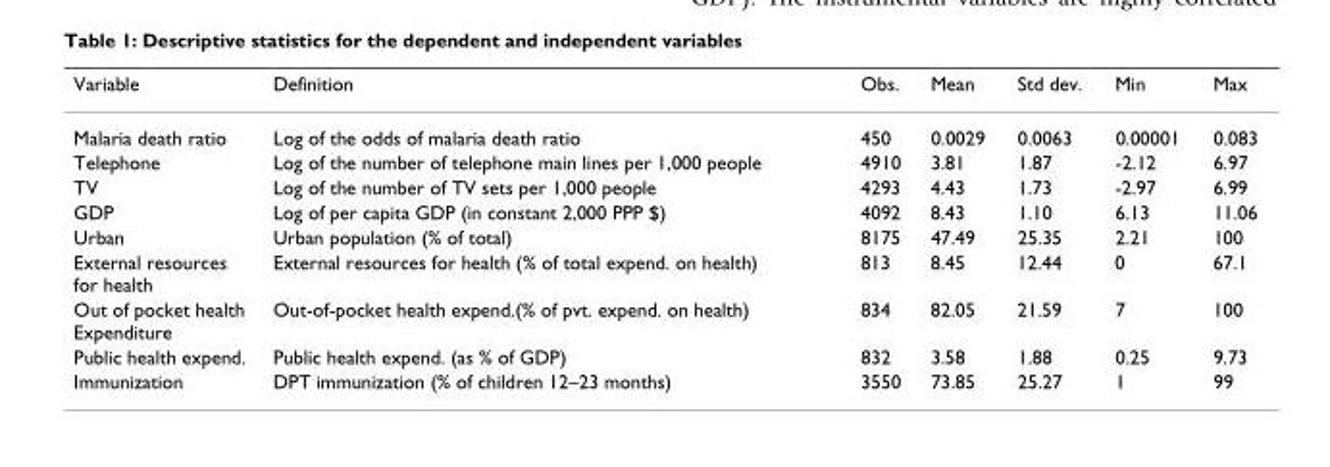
<table><thead><tr><td>Variable</td><td>Definition</td><td>Obs.</td><td>Mean</td><td>Std dev.</td><td>Min</td><td>Max</td></tr></thead><tbody><tr><td>Malaria death ratio</td><td>Log of the odds of malaria death ratio</td><td>450</td><td>0.0029</td><td>0.0063</td><td>0.00001</td><td>0.083</td></tr><tr><td>Telephone</td><td>Log of the number of telephone main lines per 1,000 people</td><td>4910</td><td>3.81</td><td>1.87</td><td>-2.12</td><td>6.97</td></tr><tr><td>TV</td><td>Log of the number of TV sets per 1,000 people</td><td>4293</td><td>4.43</td><td>1.73</td><td>-2.97</td><td>6.99</td></tr><tr><td>GDP</td><td>Log of per capita GDP (in constant 2,000 PPP $)</td><td>4092</td><td>8.43</td><td>1.10</td><td>6.13</td><td>11.06</td></tr><tr><td>Urban</td><td>Urban population (% of total)</td><td>8175</td><td>47.49</td><td>25.35</td><td>2.21</td><td>100</td></tr><tr><td>External resources for health</td><td>External resources for health (% of total expend. on health)</td><td>813</td><td>8.45</td><td>12.44</td><td>0</td><td>67.1</td></tr><tr><td>Out of pocket health Expenditure</td><td>Out-of-pocket health expend.(% of pvt. expend. on health)</td><td>834</td><td>82.05</td><td>21.59</td><td>7</td><td>100</td></tr><tr><td>Public health expend.</td><td>Public health expend. (as % of GDP)</td><td>832</td><td>3.58</td><td>1.88</td><td>0.25</td><td>9.73</td></tr><tr><td>Immunization</td><td>DPT immunization (% of children 12–23 months)</td><td>3550</td><td>73.85</td><td>25.27</td><td>1</td><td>99</td></tr></tbody></table>